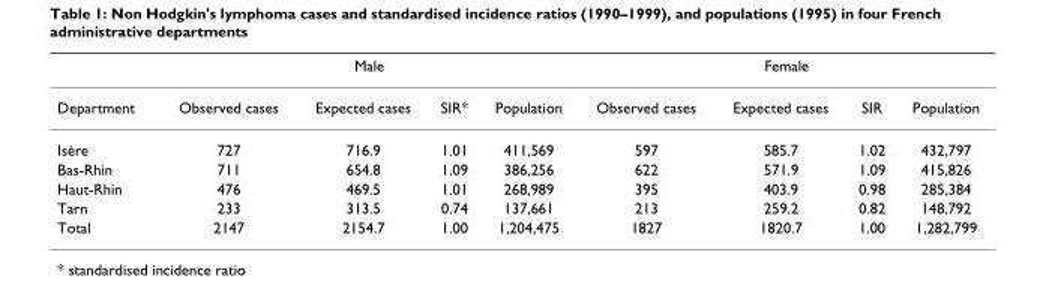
<table><thead><tr><td rowspan="2">Department</td><td colspan="4">Male</td><td colspan="4">Female</td></tr><tr><td>Observed cases</td><td>Expected cases</td><td>SIR*</td><td>Population</td><td>Observed cases</td><td>Expected cases</td><td>SIR</td><td>Population</td></tr></thead><tbody><tr><td>Isère</td><td>727</td><td>716.9</td><td>1.01</td><td>411,569</td><td>597</td><td>585.7</td><td>1.02</td><td>432,797</td></tr><tr><td>Bas-Rhin</td><td>711</td><td>654.8</td><td>1.09</td><td>386,256</td><td>622</td><td>571.9</td><td>1.09</td><td>415,826</td></tr><tr><td>Haut-Rhin</td><td>476</td><td>469.5</td><td>1.01</td><td>268,989</td><td>395</td><td>403.9</td><td>0.98</td><td>285,384</td></tr><tr><td>Tarn</td><td>233</td><td>313.5</td><td>0.74</td><td>137,661</td><td>213</td><td>259.2</td><td>0.82</td><td>148,792</td></tr><tr><td>Total</td><td>2147</td><td>2154.7</td><td>1.00</td><td>1,204,475</td><td>1827</td><td>1820.7</td><td>1.00</td><td>1,282,799</td></tr></tbody></table>